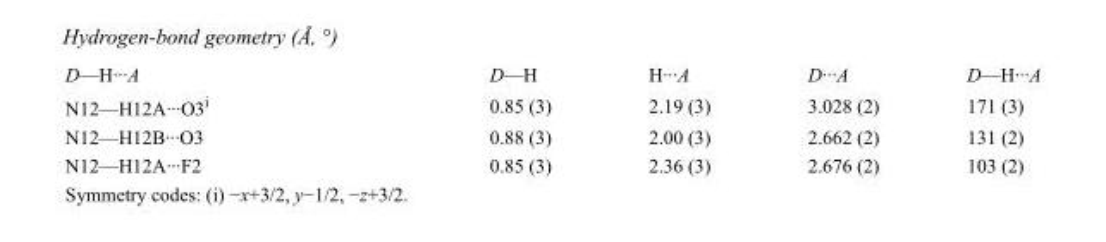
<table><tbody><tr><td>D—H···A</td><td>D—H</td><td>H···A</td><td>D···A</td><td>D—H···A</td></tr><tr><td>N12—H12A···O3<sup>i</sup></td><td>0.85 (3)</td><td>2.19 (3)</td><td>3.028 (2)</td><td>171 (3)</td></tr><tr><td>N12—H12B···O3</td><td>0.88 (3)</td><td>2.00 (3)</td><td>2.662 (2)</td><td>131 (2)</td></tr><tr><td>N12—H12A···F2</td><td>0.85 (3)</td><td>2.36 (3)</td><td>2.676 (2)</td><td>103 (2)</td></tr></tbody></table>